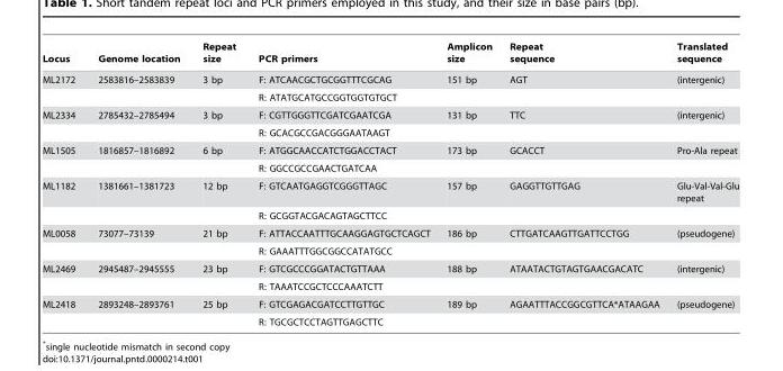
<table><thead><tr><td>Locus</td><td>Genome location</td><td>Repeat size</td><td>PCR primers</td><td>Amplicon size</td><td>Repeat sequence</td><td>Translated sequence</td></tr></thead><tbody><tr><td rowspan="2">ML2172</td><td>2583816–2583839</td><td>3 bp</td><td>F: ATCAACGCTGCGGTTTCGCAG</td><td>151 bp</td><td>AGT</td><td>(intergenic)</td></tr><tr><td></td><td></td><td>R: ATATGCATGCCGGTGGTGTGCT</td><td></td><td></td><td></td></tr><tr><td rowspan="2">ML2334</td><td>2785432–2785494</td><td>3 bp</td><td>F: CGTTGGGTTCGATCGAATCGA</td><td>131 bp</td><td>TTC</td><td>(intergenic)</td></tr><tr><td></td><td></td><td>R: GCACGCCGACGGGAATAAGT</td><td></td><td></td><td></td></tr><tr><td rowspan="2">ML1505</td><td>1816857–1816892</td><td>6 bp</td><td>F: ATGGCAACCATCTGGACCTACT</td><td>173 bp</td><td>GCACCT</td><td>Pro-Ala repeat</td></tr><tr><td></td><td></td><td>R: GGCCGCCGAACTGATCAA</td><td></td><td></td><td></td></tr><tr><td rowspan="2">ML1182</td><td>1381661–1381723</td><td>12 bp</td><td>F: GTCAATGAGGTCGGGTTAGC</td><td>157 bp</td><td>GAGGTTGTTGAG</td><td>Glu-Val-Val-Glu repeat</td></tr><tr><td></td><td></td><td>R: GCGGTACGACAGTAGCTTCC</td><td></td><td></td><td></td></tr><tr><td rowspan="2">ML0058</td><td>73077–73139</td><td>21 bp</td><td>F: ATTACCAATTTGCAAGGAGTGCTCAGCT</td><td>186 bp</td><td>CTTGATCAAGTTGATTCCTGG</td><td>(pseudogene)</td></tr><tr><td></td><td></td><td>R: GAAATTTGGCGGCCATATGCC</td><td></td><td></td><td></td></tr><tr><td rowspan="2">ML2469</td><td>2945487–2945555</td><td>23 bp</td><td>F: GTCGCCCGGATACTGTTAAA</td><td>188 bp</td><td>ATAATACTGTAGTGAACGACATC</td><td>(intergenic)</td></tr><tr><td></td><td></td><td>R: TAAATCCGCTCCCAAATCTT</td><td></td><td></td><td></td></tr><tr><td rowspan="2">ML2418</td><td>2893248–2893761</td><td>25 bp</td><td>F: GTCGAGACGATCCTTGTTGC</td><td>189 bp</td><td>AGAATTTACCGGCGTTCA*ATAAGAA</td><td>(pseudogene)</td></tr><tr><td></td><td></td><td>R: TGCGCTCCTAGTTGAGCTTC</td><td></td><td></td><td></td></tr></tbody></table>